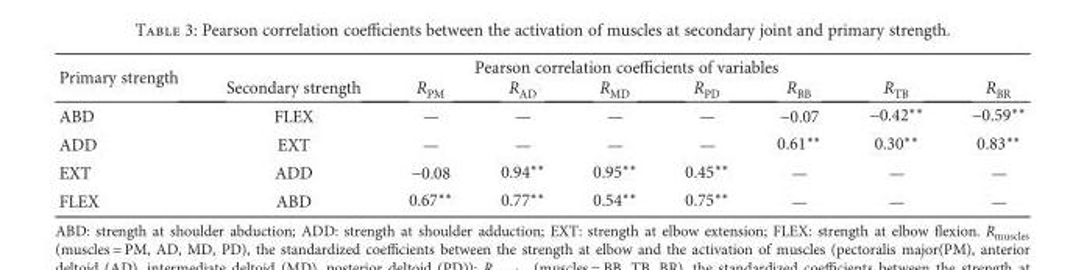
<table><thead><tr><td rowspan="2">Primary strength</td><td colspan="8">Pearson correlation coefficients of variables</td></tr><tr><td>Secondary strength</td><td>R<sub>PM</sub></td><td>R<sub>AD</sub></td><td>R<sub>MD</sub></td><td>R<sub>PD</sub></td><td>R<sub>BB</sub></td><td>R<sub>TB</sub></td><td>R<sub>BR</sub></td></tr></thead><tbody><tr><td>ABD</td><td>FLEX</td><td>—</td><td>—</td><td>—</td><td>—</td><td>−0.07</td><td>−0.42∗∗</td><td>−0.59∗∗</td></tr><tr><td>ADD</td><td>EXT</td><td>—</td><td>—</td><td>—</td><td>—</td><td>0.61∗∗</td><td>0.30∗∗</td><td>0.83∗∗</td></tr><tr><td>EXT</td><td>ADD</td><td>−0.08</td><td>0.94∗∗</td><td>0.95∗∗</td><td>0.45∗∗</td><td>—</td><td>—</td><td>—</td></tr><tr><td>FLEX</td><td>ABD</td><td>0.67∗∗</td><td>0.77∗∗</td><td>0.54∗∗</td><td>0.75∗∗</td><td>—</td><td>—</td><td>—</td></tr></tbody></table>